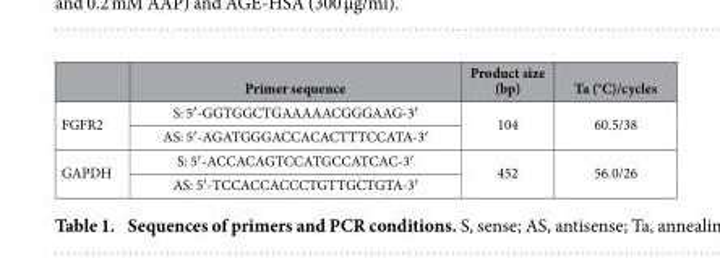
<table><thead><tr><td></td><td>Primer sequence</td><td>Product size (bp)</td><td>Ta (°C)/cycles</td></tr></thead><tbody><tr><td rowspan="2">FGFR2</td><td>S: 5′ -GGTGGCTGAAAAACGGGAAG-3′</td><td rowspan="2">104</td><td rowspan="2">60.5/38</td></tr><tr><td>AS: 5′ -AGATGGGACCACACTTTCCATA-3′</td></tr><tr><td rowspan="2">GAPDH</td><td>S: 5′ -ACCACAGTCCATGCCATCAC-3′</td><td rowspan="2">452</td><td rowspan="2">56.0/26</td></tr><tr><td>AS: 5′ -TCCACCACCCTGTTGCTGTA-3′</td></tr></tbody></table>